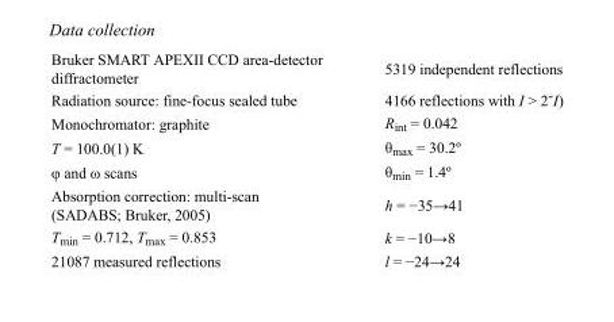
<table><tbody><tr><td>Bruker SMART APEXII CCD area-detector diffractometer</td><td>5319 independent reflections</td></tr><tr><td>Radiation source: fine-focus sealed tube</td><td>4166 reflections with I &gt; 2˘I)</td></tr><tr><td>Monochromator: graphite</td><td>R<sub>int</sub> = 0.042</td></tr><tr><td>T = 100.0(1) K</td><td>θ<sub>max</sub> = 30.2º</td></tr><tr><td>φ and ω scans</td><td>θ<sub>min</sub> = 1.4º</td></tr><tr><td>Absorption correction: multi-scan (SADABS; Bruker, 2005)</td><td>h = −35→41</td></tr><tr><td>T<sub>min</sub> = 0.712, T<sub>max</sub> = 0.853</td><td>k = −10→8</td></tr><tr><td>21087 measured reflections</td><td>l = −24→24</td></tr></tbody></table>